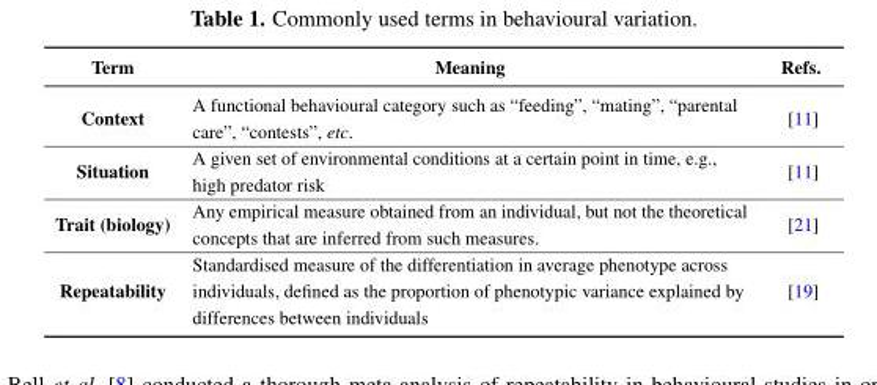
<table><thead><tr><td>Term</td><td>Meaning</td><td>Refs.</td></tr></thead><tbody><tr><td>Context</td><td>A functional behavioural category such as “feeding”, “mating”, “parental care”, “contests”, etc.</td><td>[11]</td></tr><tr><td>Situation</td><td>A given set of environmental conditions at a certain point in time, e.g., high predator risk</td><td>[11]</td></tr><tr><td>Trait (biology)</td><td>Any empirical measure obtained from an individual, but not the theoretical concepts that are inferred from such measures.</td><td>[21]</td></tr><tr><td>Repeatability</td><td>Standardised measure of the differentiation in average phenotype across individuals, defined as the proportion of phenotypic variance explained by differences between individuals</td><td>[19]</td></tr></tbody></table>